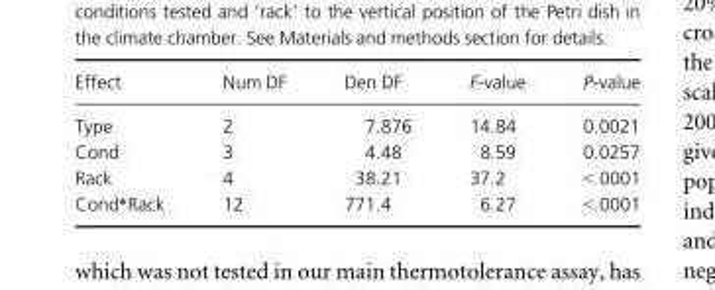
<table><thead><tr><td>Effect</td><td>Num DF</td><td>Den DF</td><td>F-value</td><td>P-value</td></tr></thead><tbody><tr><td>Type</td><td>2</td><td>7.876</td><td>14.84</td><td>0.0021</td></tr><tr><td>Cond</td><td>3</td><td>4.48</td><td>8.59</td><td>0.0257</td></tr><tr><td>Rack</td><td>4</td><td>38.21</td><td>37.2</td><td>&lt;.0001</td></tr><tr><td>Cond*Rack</td><td>12</td><td>771.4</td><td>6.27</td><td>&lt;.0001</td></tr></tbody></table>